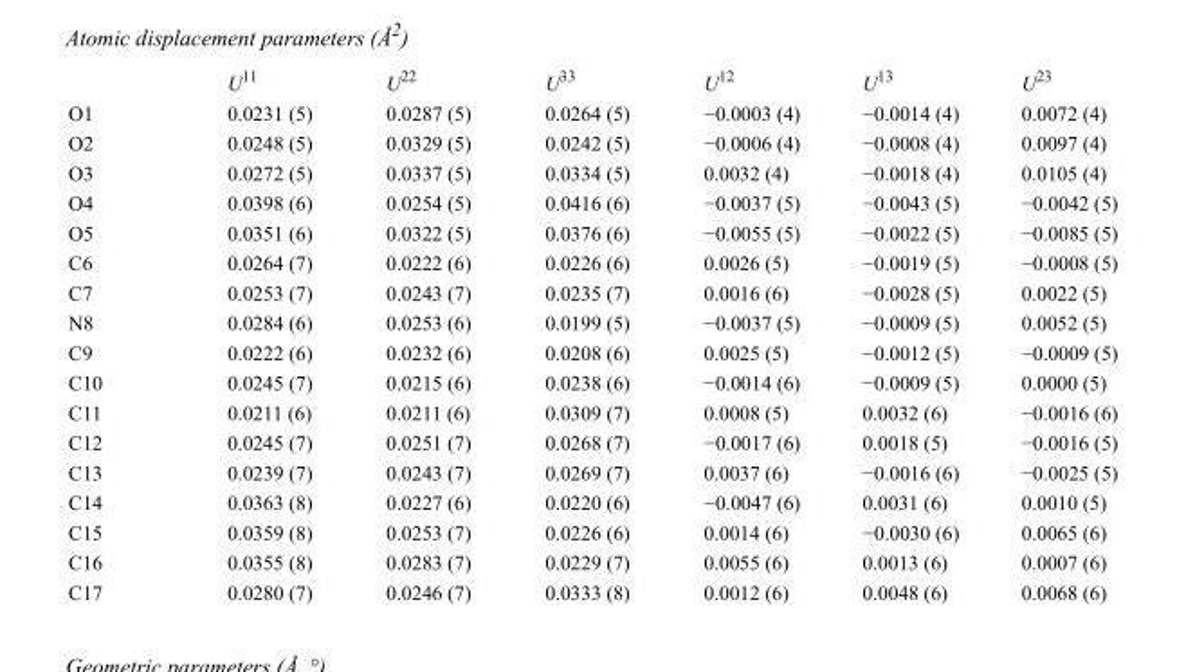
<table><thead><tr><td></td><td>U<sup>11</sup></td><td>U<sup>22</sup></td><td>U<sup>33</sup></td><td>U<sup>12</sup></td><td>U<sup>13</sup></td><td>U<sup>23</sup></td></tr></thead><tbody><tr><td>O1</td><td>0.0231 (5)</td><td>0.0287 (5)</td><td>0.0264 (5)</td><td>−0.0003 (4)</td><td>−0.0014 (4)</td><td>0.0072 (4)</td></tr><tr><td>O2</td><td>0.0248 (5)</td><td>0.0329 (5)</td><td>0.0242 (5)</td><td>−0.0006 (4)</td><td>−0.0008 (4)</td><td>0.0097 (4)</td></tr><tr><td>O3</td><td>0.0272 (5)</td><td>0.0337 (5)</td><td>0.0334 (5)</td><td>0.0032 (4)</td><td>−0.0018 (4)</td><td>0.0105 (4)</td></tr><tr><td>O4</td><td>0.0398 (6)</td><td>0.0254 (5)</td><td>0.0416 (6)</td><td>−0.0037 (5)</td><td>−0.0043 (5)</td><td>−0.0042 (5)</td></tr><tr><td>O5</td><td>0.0351 (6)</td><td>0.0322 (5)</td><td>0.0376 (6)</td><td>−0.0055 (5)</td><td>−0.0022 (5)</td><td>−0.0085 (5)</td></tr><tr><td>C6</td><td>0.0264 (7)</td><td>0.0222 (6)</td><td>0.0226 (6)</td><td>0.0026 (5)</td><td>−0.0019 (5)</td><td>−0.0008 (5)</td></tr><tr><td>C7</td><td>0.0253 (7)</td><td>0.0243 (7)</td><td>0.0235 (7)</td><td>0.0016 (6)</td><td>−0.0028 (5)</td><td>0.0022 (5)</td></tr><tr><td>N8</td><td>0.0284 (6)</td><td>0.0253 (6)</td><td>0.0199 (5)</td><td>−0.0037 (5)</td><td>−0.0009 (5)</td><td>0.0052 (5)</td></tr><tr><td>C9</td><td>0.0222 (6)</td><td>0.0232 (6)</td><td>0.0208 (6)</td><td>0.0025 (5)</td><td>−0.0012 (5)</td><td>−0.0009 (5)</td></tr><tr><td>C10</td><td>0.0245 (7)</td><td>0.0215 (6)</td><td>0.0238 (6)</td><td>−0.0014 (6)</td><td>−0.0009 (5)</td><td>0.0000 (5)</td></tr><tr><td>C11</td><td>0.0211 (6)</td><td>0.0211 (6)</td><td>0.0309 (7)</td><td>0.0008 (5)</td><td>0.0032 (6)</td><td>−0.0016 (6)</td></tr><tr><td>C12</td><td>0.0245 (7)</td><td>0.0251 (7)</td><td>0.0268 (7)</td><td>−0.0017 (6)</td><td>0.0018 (5)</td><td>−0.0016 (5)</td></tr><tr><td>C13</td><td>0.0239 (7)</td><td>0.0243 (7)</td><td>0.0269 (7)</td><td>0.0037 (6)</td><td>−0.0016 (6)</td><td>−0.0025 (5)</td></tr><tr><td>C14</td><td>0.0363 (8)</td><td>0.0227 (6)</td><td>0.0220 (6)</td><td>−0.0047 (6)</td><td>0.0031 (6)</td><td>0.0010 (5)</td></tr><tr><td>C15</td><td>0.0359 (8)</td><td>0.0253 (7)</td><td>0.0226 (6)</td><td>0.0014 (6)</td><td>−0.0030 (6)</td><td>0.0065 (6)</td></tr><tr><td>C16</td><td>0.0355 (8)</td><td>0.0283 (7)</td><td>0.0229 (7)</td><td>0.0055 (6)</td><td>0.0013 (6)</td><td>0.0007 (6)</td></tr><tr><td>C17</td><td>0.0280 (7)</td><td>0.0246 (7)</td><td>0.0333 (8)</td><td>0.0012 (6)</td><td>0.0048 (6)</td><td>0.0068 (6)</td></tr></tbody></table>